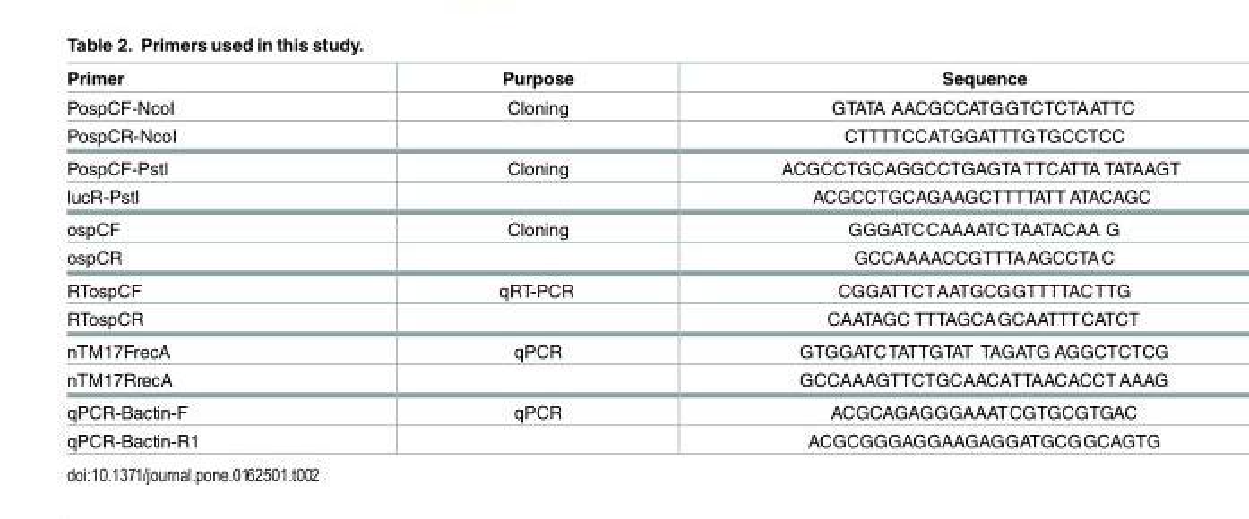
<table><thead><tr><td>Primer</td><td>Purpose</td><td>Sequence</td></tr></thead><tbody><tr><td>PospCF-NcoI</td><td>Cloning</td><td>GTATA AACGCCATGGTCTCTAATTC</td></tr><tr><td>PospCR-NcoI</td><td></td><td>CTTTTCCATGGATTTGTGCCTCC</td></tr><tr><td>PospCF-PstI</td><td>Cloning</td><td>ACGCCTGCAGGCCTGAGTATTCATTA TATAAGT</td></tr><tr><td>lucR-PstI</td><td></td><td>ACGCCTGCAGAAGCTTTTATT ATACAGC</td></tr><tr><td>ospCF</td><td>Cloning</td><td>GGGATCCAAAATCTAATACAA G</td></tr><tr><td>ospCR</td><td></td><td>GCCAAAACCGTTTAAGCCTAC</td></tr><tr><td>RTospCF</td><td>qRT-PCR</td><td>CGGATTCTAATGCGGTTTTACTTG</td></tr><tr><td>RTospCR</td><td></td><td>CAATAGC TTTAGCAGCAATTTCATCT</td></tr><tr><td>nTM17FrecA</td><td>qPCR</td><td>GTGGATCTATTGTAT TAGATG AGGCTCTCG</td></tr><tr><td>nTM17RrecA</td><td></td><td>GCCAAAGTTCTGCAACATTAACACCTAAAG</td></tr><tr><td>qPCR-Bactin-F</td><td>qPCR</td><td>ACGCAGAGGGAAATCGTGCGTGAC</td></tr><tr><td>qPCR-Bactin-R1</td><td></td><td>ACGCGGGAGGAAGAGGATGCGGCAGTG</td></tr></tbody></table>